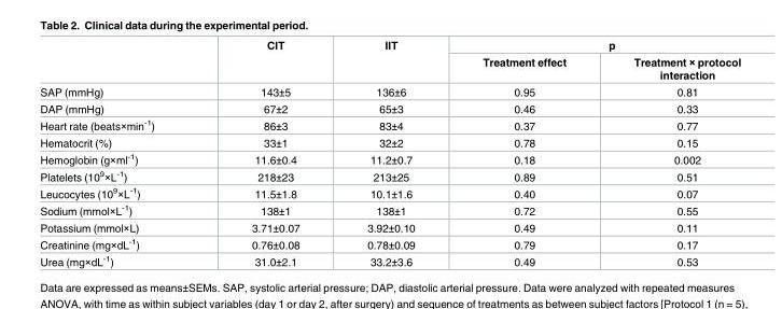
<table><thead><tr><td rowspan="2"></td><td rowspan="2">CIT</td><td rowspan="2">IIT</td><td colspan="2">p</td></tr><tr><td>Treatment effect</td><td>Treatment × protocol interaction</td></tr></thead><tbody><tr><td>SAP (mmHg)</td><td>143±5</td><td>136±6</td><td>0.95</td><td>0.81</td></tr><tr><td>DAP (mmHg)</td><td>67±2</td><td>65±3</td><td>0.46</td><td>0.33</td></tr><tr><td>Heart rate (beats×min<sup>-1</sup>)</td><td>86±3</td><td>83±4</td><td>0.37</td><td>0.77</td></tr><tr><td>Hematocrit (%)</td><td>33±1</td><td>32±2</td><td>0.78</td><td>0.15</td></tr><tr><td>Hemoglobin (g×ml<sup>-1</sup>)</td><td>11.6±0.4</td><td>11.2±0.7</td><td>0.18</td><td>0.002</td></tr><tr><td>Platelets (10<sup>9</sup>×L<sup>-1</sup>)</td><td>218±23</td><td>213±25</td><td>0.89</td><td>0.51</td></tr><tr><td>Leucocytes (10<sup>9</sup>×L<sup>-1</sup>)</td><td>11.5±1.8</td><td>10.1±1.6</td><td>0.40</td><td>0.07</td></tr><tr><td>Sodium (mmol×L<sup>-1</sup>)</td><td>138±1</td><td>138±1</td><td>0.72</td><td>0.55</td></tr><tr><td>Potassium (mmol×L)</td><td>3.71±0.07</td><td>3.92±0.10</td><td>0.49</td><td>0.11</td></tr><tr><td>Creatinine (mg×dL<sup>-1</sup>)</td><td>0.76±0.08</td><td>0.78±0.09</td><td>0.79</td><td>0.17</td></tr><tr><td>Urea (mg×dL<sup>-1</sup>)</td><td>31.0±2.1</td><td>33.2±3.6</td><td>0.49</td><td>0.53</td></tr></tbody></table>